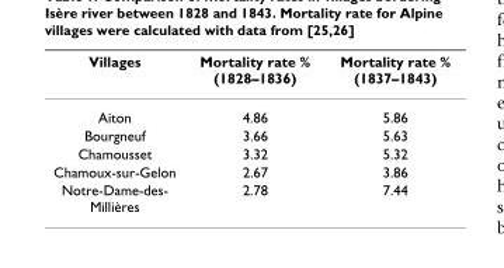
<table><thead><tr><td>Villages</td><td>Mortality rate % (1828–1836)</td><td>Mortality rate % (1837–1843)</td></tr></thead><tbody><tr><td>Aiton</td><td>4.86</td><td>5.86</td></tr><tr><td>Bourgneuf</td><td>3.66</td><td>5.63</td></tr><tr><td>Chamousset</td><td>3.32</td><td>5.32</td></tr><tr><td>Chamoux-sur-Gelon</td><td>2.67</td><td>3.86</td></tr><tr><td>Notre-Dame-des- Millières</td><td>2.78</td><td>7.44</td></tr></tbody></table>